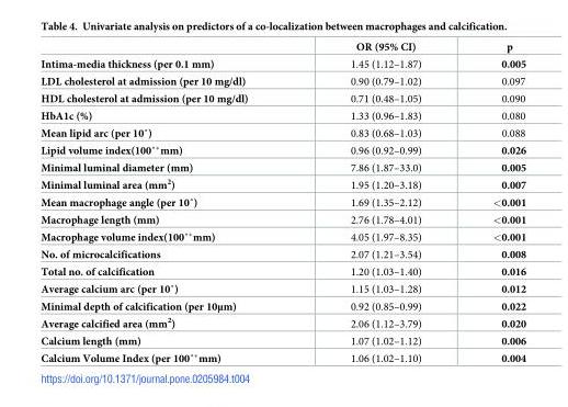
<table><thead><tr><td></td><td>OR (95% CI)</td><td>p</td></tr></thead><tbody><tr><td>Intima-media thickness (per 0.1 mm)</td><td>1.45 (1.12–1.87)</td><td>0.005</td></tr><tr><td>LDL cholesterol at admission (per 10 mg/dl)</td><td>0.90 (0.79–1.02)</td><td>0.097</td></tr><tr><td>HDL cholesterol at admission (per 10 mg/dl)</td><td>0.71 (0.48–1.05)</td><td>0.090</td></tr><tr><td>HbA1c (%)</td><td>1.33 (0.96–1.83)</td><td>0.080</td></tr><tr><td>Mean lipid arc (per 10˚)</td><td>0.83 (0.68–1.03)</td><td>0.088</td></tr><tr><td>Lipid volume index(100˚*mm)</td><td>0.96 (0.92–0.99)</td><td>0.026</td></tr><tr><td>Minimal luminal diameter (mm)</td><td>7.86 (1.87–33.0)</td><td>0.005</td></tr><tr><td>Minimal luminal area (mm<sup>2</sup>)</td><td>1.95 (1.20–3.18)</td><td>0.007</td></tr><tr><td>Mean macrophage angle (per 10˚)</td><td>1.69 (1.35–2.12)</td><td>&lt;0.001</td></tr><tr><td>Macrophage length (mm)</td><td>2.76 (1.78–4.01)</td><td>&lt;0.001</td></tr><tr><td>Macrophage volume index(100˚*mm)</td><td>4.05 (1.97–8.35)</td><td>&lt;0.001</td></tr><tr><td>No. of microcalcifications</td><td>2.07 (1.21–3.54)</td><td>0.008</td></tr><tr><td>Total no. of calcification</td><td>1.20 (1.03–1.40)</td><td>0.016</td></tr><tr><td>Average calcium arc (per 10˚)</td><td>1.15 (1.03–1.28)</td><td>0.012</td></tr><tr><td>Minimal depth of calcification (per 10μm)</td><td>0.92 (0.85–0.99)</td><td>0.022</td></tr><tr><td>Average calcified area (mm<sup>2</sup>)</td><td>2.06 (1.12–3.79)</td><td>0.020</td></tr><tr><td>Calcium length (mm)</td><td>1.07 (1.02–1.12)</td><td>0.006</td></tr><tr><td>Calcium Volume Index (per 100˚*mm)</td><td>1.06 (1.02–1.10)</td><td>0.004</td></tr></tbody></table>